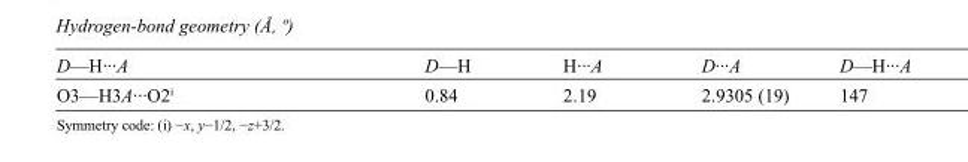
<table><tbody><tr><td>D—H···A</td><td>D—H</td><td>H···A</td><td>D···A</td><td>D—H···A</td></tr><tr><td>O3—H3A···O2<sup>i</sup></td><td>0.84</td><td>2.19</td><td>2.9305 (19)</td><td>147</td></tr></tbody></table>